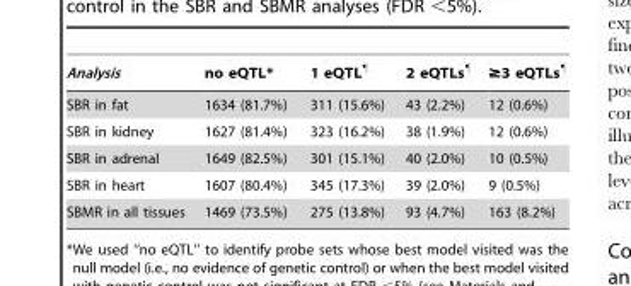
<table><thead><tr><td>Analysis</td><td>no eQTL*</td><td>1 eQTL¶</td><td>2 eQTLs¶</td><td>≥3 eQTLs¶</td></tr></thead><tbody><tr><td>SBR in fat</td><td>1634 (81.7%)</td><td>311 (15.6%)</td><td>43 (2.2%)</td><td>12 (0.6%)</td></tr><tr><td>SBR in kidney</td><td>1627 (81.4%)</td><td>323 (16.2%)</td><td>38 (1.9%)</td><td>12 (0.6%)</td></tr><tr><td>SBR in adrenal</td><td>1649 (82.5%)</td><td>301 (15.1%)</td><td>40 (2.0%)</td><td>10 (0.5%)</td></tr><tr><td>SBR in heart</td><td>1607 (80.4%)</td><td>345 (17.3%)</td><td>39 (2.0%)</td><td>9 (0.5%)</td></tr><tr><td>SBMR in all tissues</td><td>1469 (73.5%)</td><td>275 (13.8%)</td><td>93 (4.7%)</td><td>163 (8.2%)</td></tr></tbody></table>